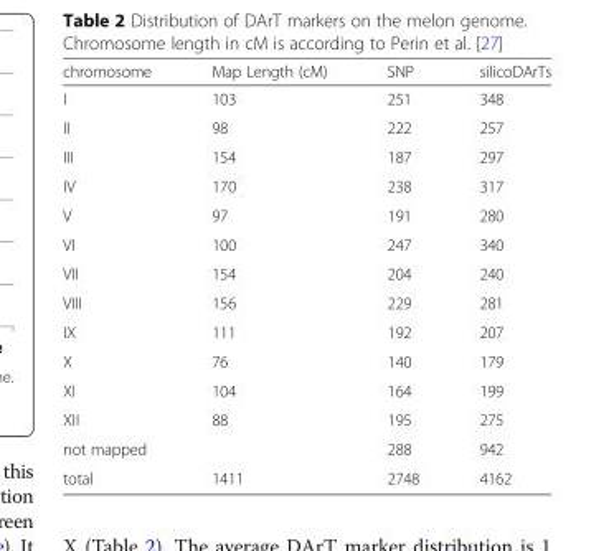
<table><thead><tr><td>chromosome</td><td>Map Length (cM)</td><td>SNP</td><td>silicoDArTs</td></tr></thead><tbody><tr><td>I</td><td>103</td><td>251</td><td>348</td></tr><tr><td>II</td><td>98</td><td>222</td><td>257</td></tr><tr><td>III</td><td>154</td><td>187</td><td>297</td></tr><tr><td>IV</td><td>170</td><td>238</td><td>317</td></tr><tr><td>V</td><td>97</td><td>191</td><td>280</td></tr><tr><td>VI</td><td>100</td><td>247</td><td>340</td></tr><tr><td>VII</td><td>154</td><td>204</td><td>240</td></tr><tr><td>VIII</td><td>156</td><td>229</td><td>281</td></tr><tr><td>IX</td><td>111</td><td>192</td><td>207</td></tr><tr><td>X</td><td>76</td><td>140</td><td>179</td></tr><tr><td>XI</td><td>104</td><td>164</td><td>199</td></tr><tr><td>XII</td><td>88</td><td>195</td><td>275</td></tr><tr><td>not mapped</td><td></td><td>288</td><td>942</td></tr><tr><td>total</td><td>1411</td><td>2748</td><td>4162</td></tr></tbody></table>